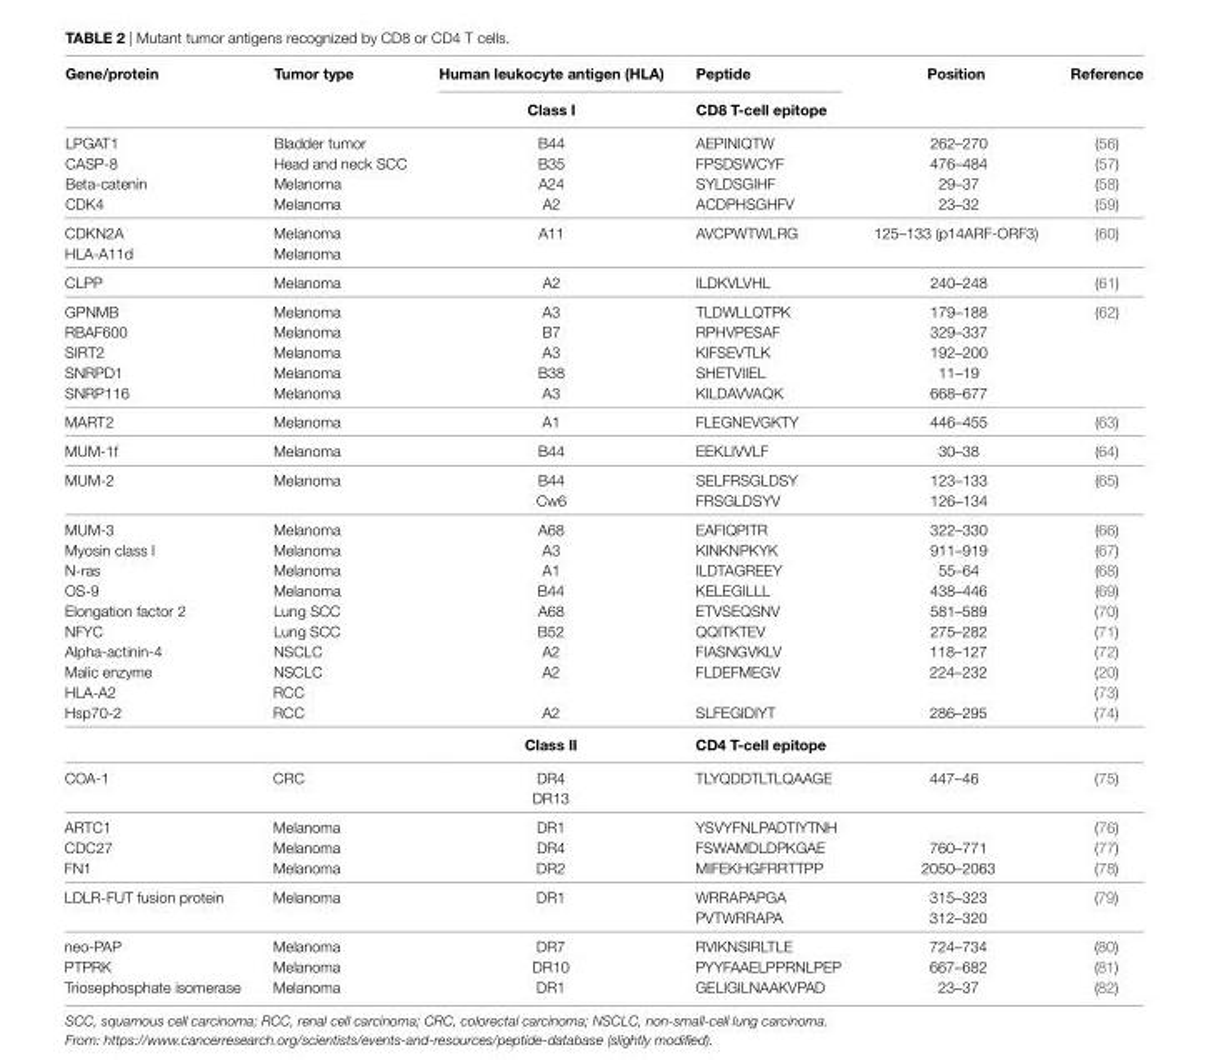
<table><thead><tr><td rowspan="2">Gene/protein</td><td rowspan="2">Tumor type</td><td rowspan="2">Human leukocyte antigen (HLA) Class i</td><td rowspan="2">Peptide CD8 T-cell epitope</td><td rowspan="2">Position</td><td rowspan="2">Reference</td></tr><tr></tr></thead><tbody><tr><td>LPGAT1</td><td>Bladder tumor</td><td>B44</td><td>AEPINIQTW</td><td>262–270</td><td>(56)</td></tr><tr><td>CASP-8</td><td>Head and neck SCC</td><td>B35</td><td>FPSDSWCYF</td><td>476–484</td><td>(57)</td></tr><tr><td>Beta-catenin</td><td>Melanoma</td><td>A24</td><td>SYLDSGIHF</td><td>29–37</td><td>(58)</td></tr><tr><td>CDK4</td><td>Melanoma</td><td>A2</td><td>ACDPHSGHFV</td><td>23–32</td><td>(59)</td></tr><tr><td>CDKN2A</td><td>Melanoma</td><td>A11</td><td>AVCPWTWLRG</td><td>125–133 (p14ARF-ORF3)</td><td rowspan="2">(60)</td></tr><tr><td>HLA-A11d</td><td>Melanoma</td><td></td><td></td><td></td></tr><tr><td>CLPP</td><td>Melanoma</td><td>A2</td><td>ILDKVLVHL</td><td>240–248</td><td>(61)</td></tr><tr><td>GPNMB</td><td>Melanoma</td><td>A3</td><td>TLDWLLQTPK</td><td>179–188</td><td rowspan="5">(62)</td></tr><tr><td>RBAF600</td><td>Melanoma</td><td>B7</td><td>RPHVPESAF</td><td>329–337</td></tr><tr><td>SIRT2</td><td>Melanoma</td><td>A3</td><td>KIFSEVTLK</td><td>192–200</td></tr><tr><td>SNRPD1</td><td>Melanoma</td><td>B38</td><td>SHETVIIEL</td><td>11–19</td></tr><tr><td>SNRP116</td><td>Melanoma</td><td>A3</td><td>KILDAVVAQK</td><td>668–677</td></tr><tr><td>MART2</td><td>Melanoma</td><td>A1</td><td>FLEGNEVGKTY</td><td>446–455</td><td>(63)</td></tr><tr><td>MUM-1f</td><td>Melanoma</td><td>B44</td><td>EEKLIVVLF</td><td>30–38</td><td>(64)</td></tr><tr><td rowspan="2">MUM-2</td><td rowspan="2">Melanoma</td><td>B44</td><td>SELFRSGLDSY</td><td>123–133</td><td rowspan="2">(65)</td></tr><tr><td>Cw6</td><td>FRSGLDSYV</td><td>126–134</td></tr><tr><td>MUM-3</td><td>Melanoma</td><td>A68</td><td>EAFIQPITR</td><td>322–330</td><td>(66)</td></tr><tr><td>Myosin class I</td><td>Melanoma</td><td>A3</td><td>KINKNPKYK</td><td>911–919</td><td>(67)</td></tr><tr><td>N-ras</td><td>Melanoma</td><td>A1</td><td>ILDTAGREEY</td><td>55–64</td><td>(68)</td></tr><tr><td>OS-9</td><td>Melanoma</td><td>B44</td><td>KELEGILLL</td><td>438–446</td><td>(69)</td></tr><tr><td>Elongation factor 2</td><td>Lung SCC</td><td>A68</td><td>ETVSEQSNV</td><td>581–589</td><td>(70)</td></tr><tr><td>NFYC</td><td>Lung SCC</td><td>B52</td><td>QQITKTEV</td><td>275–282</td><td>(71)</td></tr><tr><td>Alpha-actinin-4</td><td>NSCLC</td><td>A2</td><td>FIASNGVKLV</td><td>118–127</td><td>(72)</td></tr><tr><td>Malic enzyme</td><td>NSCLC</td><td>A2</td><td>FLDEFMEGV</td><td>224–232</td><td>(20)</td></tr><tr><td>HLA-A2</td><td>RCC</td><td></td><td></td><td></td><td>(73)</td></tr><tr><td rowspan="2">Hsp70-2</td><td>RCC</td><td>A2</td><td>SLFEGIDIYT</td><td>286–295</td><td>(74)</td></tr><tr><td></td><td>Class ii</td><td>CD4 T-cell epitope</td><td></td><td></td></tr><tr><td rowspan="2">COA-1</td><td rowspan="2">CRC</td><td>DR4</td><td rowspan="2">TLYQDDTLTLQAAGE</td><td rowspan="2">447–46</td><td rowspan="2">(75)</td></tr><tr><td>DR13</td></tr><tr><td>ARTC1</td><td>Melanoma</td><td>DR1</td><td>YSVYFNLPADTIYTNH</td><td></td><td>(76)</td></tr><tr><td>CDC27</td><td>Melanoma</td><td>DR4</td><td>FSWAMDLDPKGAE</td><td>760–771</td><td>(77)</td></tr><tr><td>FN1</td><td>Melanoma</td><td>DR2</td><td>MIFEKHGFRRTTPP</td><td>2050–2063</td><td>(78)</td></tr><tr><td rowspan="2">LDLR-FUT fusion protein</td><td rowspan="2">Melanoma</td><td rowspan="2">DR1</td><td>WRRAPAPGA</td><td>315–323</td><td rowspan="2">(79)</td></tr><tr><td>PVTWRRAPA</td><td>312–320</td></tr><tr><td>neo-PAP</td><td>Melanoma</td><td>DR7</td><td>RVIKNSIRLTLE</td><td>724–734</td><td>(80)</td></tr><tr><td>PTPRK</td><td>Melanoma</td><td>DR10</td><td>PYYFAAELPPRNLPEP</td><td>667–682</td><td>(81)</td></tr><tr><td>Triosephosphate isomerase</td><td>Melanoma</td><td>DR1</td><td>GELIGILNAAKVPAD</td><td>23–37</td><td>(82)</td></tr></tbody></table>